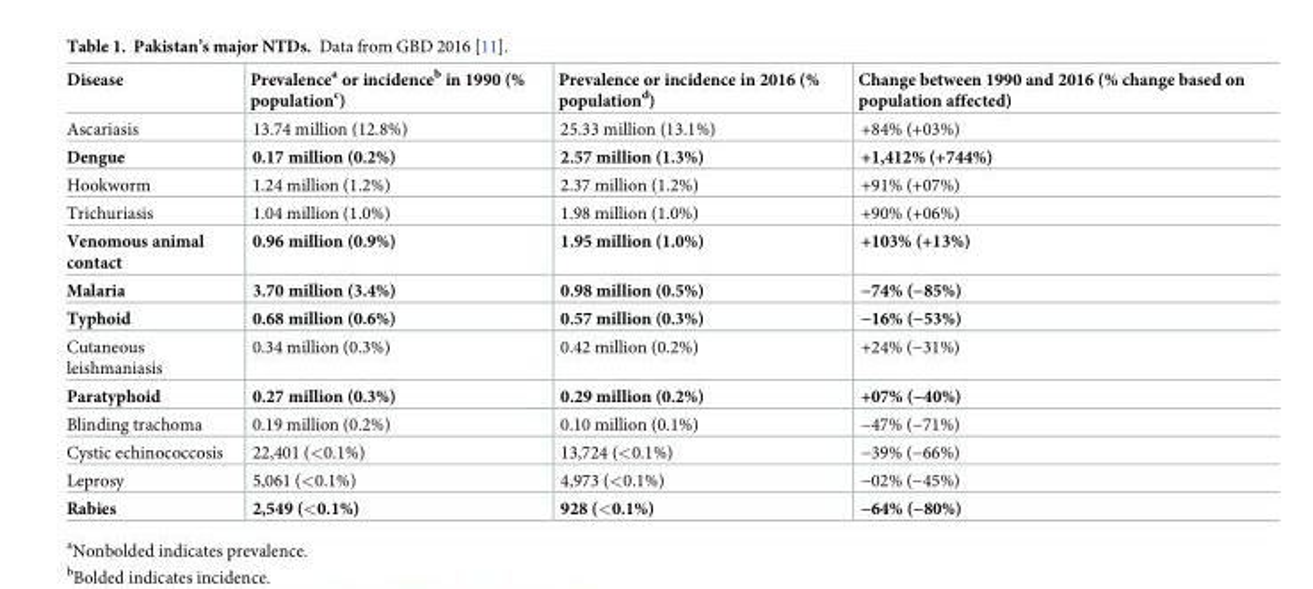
<table><thead><tr><td>Disease</td><td>Prevalence<sup>a</sup> or incidence<sup>b</sup> in 1990 (% population<sup>c</sup>)</td><td>Prevalence or incidence in 2016 (% population<sup>d</sup>)</td><td>Change between 1990 and 2016 (% change based on population affected)</td></tr></thead><tbody><tr><td>Ascariasis</td><td>13.74 million (12.8%)</td><td>25.33 million (13.1%)</td><td>+84% (+03%)</td></tr><tr><td>Dengue</td><td>0.17 million (0.2%)</td><td>2.57 million (1.3%)</td><td>+1,412% (+744%)</td></tr><tr><td>Hookworm</td><td>1.24 million (1.2%)</td><td>2.37 million (1.2%)</td><td>+91% (+07%)</td></tr><tr><td>Trichuriasis</td><td>1.04 million (1.0%)</td><td>1.98 million (1.0%)</td><td>+90% (+06%)</td></tr><tr><td>Venomous animal contact</td><td>0.96 million (0.9%)</td><td>1.95 million (1.0%)</td><td>+103% (+13%)</td></tr><tr><td>Malaria</td><td>3.70 million (3.4%)</td><td>0.98 million (0.5%)</td><td>−74% (−85%)</td></tr><tr><td>Typhoid</td><td>0.68 million (0.6%)</td><td>0.57 million (0.3%)</td><td>−16% (−53%)</td></tr><tr><td>Cutaneous leishmaniasis</td><td>0.34 million (0.3%)</td><td>0.42 million (0.2%)</td><td>+24% (−31%)</td></tr><tr><td>Paratyphoid</td><td>0.27 million (0.3%)</td><td>0.29 million (0.2%)</td><td>+07% (−40%)</td></tr><tr><td>Blinding trachoma</td><td>0.19 million (0.2%)</td><td>0.10 million (0.1%)</td><td>−47% (−71%)</td></tr><tr><td>Cystic echinococcosis</td><td>22,401 (&lt;0.1%)</td><td>13,724 (&lt;0.1%)</td><td>−39% (−66%)</td></tr><tr><td>Leprosy</td><td>5,061 (&lt;0.1%)</td><td>4,973 (&lt;0.1%)</td><td>−02% (−45%)</td></tr><tr><td>Rabies</td><td>2,549 (&lt;0.1%)</td><td>928 (&lt;0.1%)</td><td>−64% (−80%)</td></tr></tbody></table>